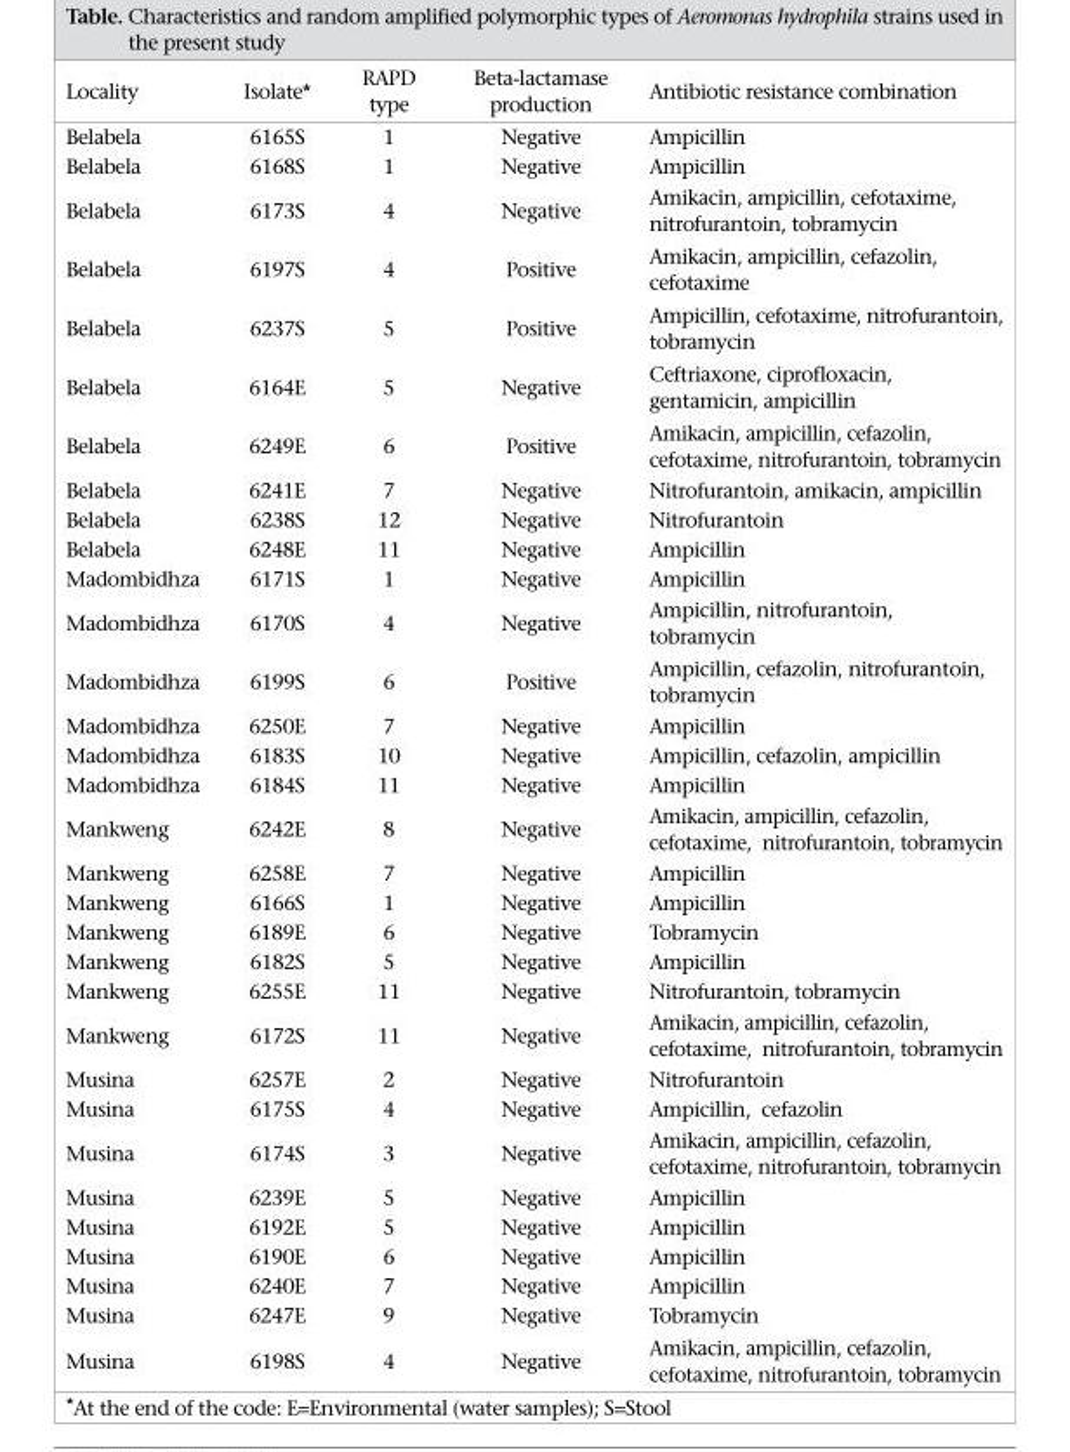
<table><thead><tr><td>Locality</td><td>Isolate*</td><td>RAPD type</td><td>Beta-lactamase production</td><td>Antibiotic resistance combination</td></tr></thead><tbody><tr><td>Belabela</td><td>6165S</td><td>1</td><td>Negative</td><td>Ampicillin</td></tr><tr><td>Belabela</td><td>6168S</td><td>1</td><td>Negative</td><td>Ampicillin</td></tr><tr><td>Belabela</td><td>6173S</td><td>4</td><td>Negative</td><td>Amikacin, ampicillin, cefotaxime, nitrofurantoin, tobramycin</td></tr><tr><td>Belabela</td><td>6197S</td><td>4</td><td>Positive</td><td>Amikacin, ampicillin, cefazolin, cefotaxime</td></tr><tr><td>Belabela</td><td>6237S</td><td>5</td><td>Positive</td><td>Ampicillin, cefotaxime, nitrofurantoin, tobramycin</td></tr><tr><td>Belabela</td><td>6164E</td><td>5</td><td>Negative</td><td>Ceftriaxone, ciprofloxacin, gentamicin, ampicillin</td></tr><tr><td>Belabela</td><td>6249E</td><td>6</td><td>Positive</td><td>Amikacin, ampicillin, cefazolin, cefotaxime, nitrofurantoin, tobramycin</td></tr><tr><td>Belabela</td><td>6241E</td><td>7</td><td>Negative</td><td>Nitrofurantoin, amikacin, ampicillin</td></tr><tr><td>Belabela</td><td>6238S</td><td>12</td><td>Negative</td><td>Nitrofurantoin</td></tr><tr><td>Belabela</td><td>6248E</td><td>11</td><td>Negative</td><td>Ampicillin</td></tr><tr><td>Madombidhza</td><td>6171S</td><td>1</td><td>Negative</td><td>Ampicillin</td></tr><tr><td>Madombidhza</td><td>6170S</td><td>4</td><td>Negative</td><td>Ampicillin, nitrofurantoin, tobramycin</td></tr><tr><td>Madombidhza</td><td>6199S</td><td>6</td><td>Positive</td><td>Ampicillin, cefazolin, nitrofurantoin, tobramycin</td></tr><tr><td>Madombidhza</td><td>6250E</td><td>7</td><td>Negative</td><td>Ampicillin</td></tr><tr><td>Madombidhza</td><td>6183S</td><td>10</td><td>Negative</td><td>Ampicillin, cefazolin, ampicillin</td></tr><tr><td>Madombidhza</td><td>6184S</td><td>11</td><td>Negative</td><td>Ampicillin</td></tr><tr><td>Mankweng</td><td>6242E</td><td>8</td><td>Negative</td><td>Amikacin, ampicillin, cefazolin, cefotaxime, nitrofurantoin, tobramycin</td></tr><tr><td>Mankweng</td><td>6258E</td><td>7</td><td>Negative</td><td>Ampicillin</td></tr><tr><td>Mankweng</td><td>6166S</td><td>1</td><td>Negative</td><td>Ampicillin</td></tr><tr><td>Mankweng</td><td>6189E</td><td>6</td><td>Negative</td><td>Tobramycin</td></tr><tr><td>Mankweng</td><td>6182S</td><td>5</td><td>Negative</td><td>Ampicillin</td></tr><tr><td>Mankweng</td><td>6255E</td><td>11</td><td>Negative</td><td>Nitrofurantoin, tobramycin</td></tr><tr><td>Mankweng</td><td>6172S</td><td>11</td><td>Negative</td><td>Amikacin, ampicillin, cefazolin, cefotaxime, nitrofurantoin, tobramycin</td></tr><tr><td>Musina</td><td>6257E</td><td>2</td><td>Negative</td><td>Nitrofurantoin</td></tr><tr><td>Musina</td><td>6175S</td><td>4</td><td>Negative</td><td>Ampicillin, cefazolin</td></tr><tr><td>Musina</td><td>6174S</td><td>3</td><td>Negative</td><td>Amikacin, ampicillin, cefazolin, cefotaxime, nitrofurantoin, tobramycin</td></tr><tr><td>Musina</td><td>6239E</td><td>5</td><td>Negative</td><td>Ampicillin</td></tr><tr><td>Musina</td><td>6192E</td><td>5</td><td>Negative</td><td>Ampicillin</td></tr><tr><td>Musina</td><td>6190E</td><td>6</td><td>Negative</td><td>Ampicillin</td></tr><tr><td>Musina</td><td>6240E</td><td>7</td><td>Negative</td><td>Ampicillin</td></tr><tr><td>Musina</td><td>6247E</td><td>9</td><td>Negative</td><td>Tobramycin</td></tr><tr><td>Musina</td><td>6198S</td><td>4</td><td>Negative</td><td>Amikacin, ampicillin, cefazolin, cefotaxime, nitrofurantoin, tobramycin</td></tr></tbody></table>